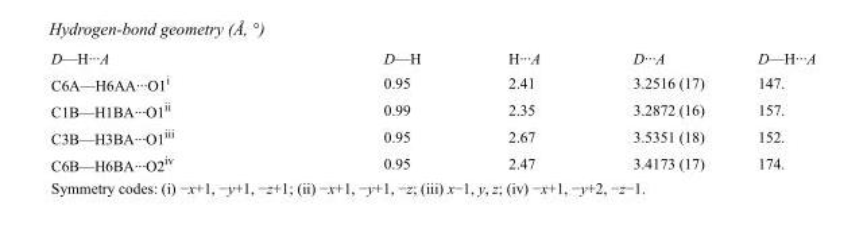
<table><tbody><tr><td>D—H···A</td><td>D—H</td><td>H···A</td><td>D···A</td><td>D—H···A</td></tr><tr><td>C6A—H6AA···O1<sup>i</sup></td><td>0.95</td><td>2.41</td><td>3.2516 (17)</td><td>147.</td></tr><tr><td>C1B—H1BA···O1<sup>ii</sup></td><td>0.99</td><td>2.35</td><td>3.2872 (16)</td><td>157.</td></tr><tr><td>C3B—H3BA···O1<sup>iii</sup></td><td>0.95</td><td>2.67</td><td>3.5351 (18)</td><td>152.</td></tr><tr><td>C6B—H6BA···O2<sup>iv</sup></td><td>0.95</td><td>2.47</td><td>3.4173 (17)</td><td>174.</td></tr></tbody></table>